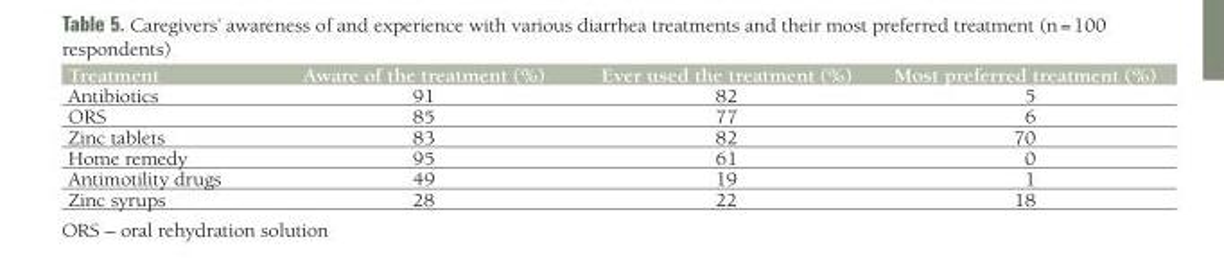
<table><thead><tr><td>Treatment</td><td>Aware of the treatment (%)</td><td>Ever used the treatment (%)</td><td>Most preferred treatment (%)</td></tr></thead><tbody><tr><td>Antibiotics</td><td>91</td><td>82</td><td>5</td></tr><tr><td>ORS</td><td>85</td><td>77</td><td>6</td></tr><tr><td>Zinc tablets</td><td>83</td><td>82</td><td>70</td></tr><tr><td>Home remedy</td><td>95</td><td>61</td><td>0</td></tr><tr><td>Antimotility drugs</td><td>49</td><td>19</td><td>1</td></tr><tr><td>Zinc syrups</td><td>28</td><td>22</td><td>18</td></tr></tbody></table>